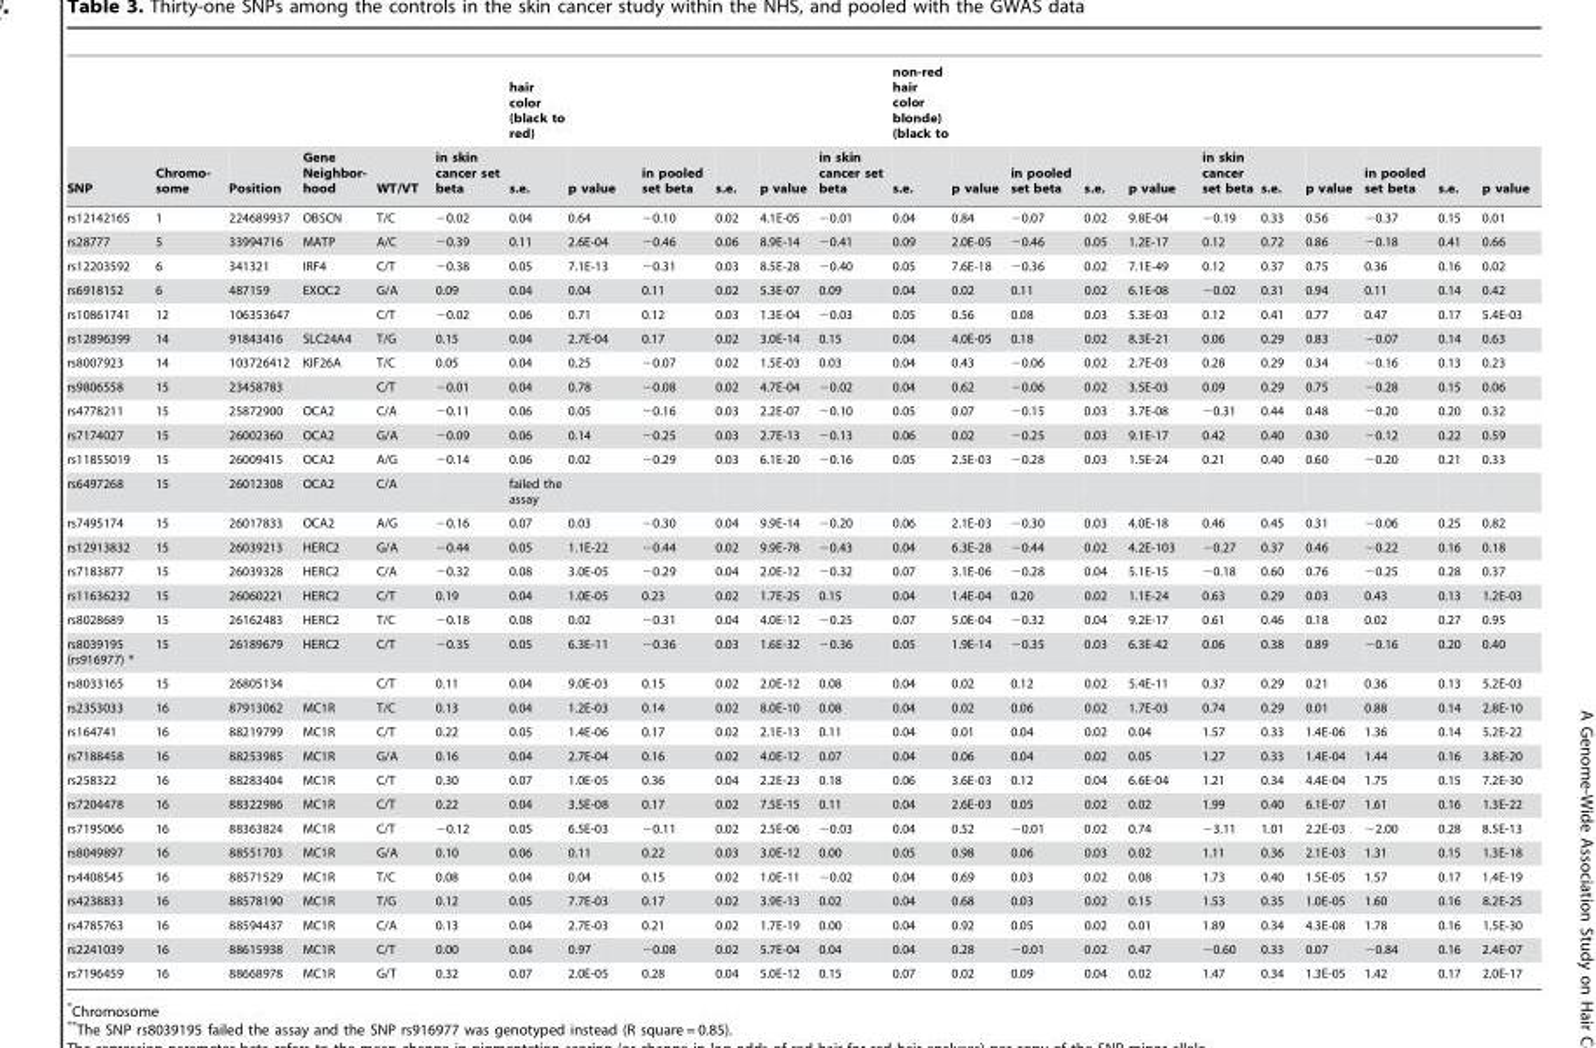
<table><thead><tr><td rowspan="2">SNP</td><td rowspan="2">Chromo- some</td><td rowspan="2">Position</td><td rowspan="2">Gene Neighbor- hood</td><td rowspan="2">WT/VT</td><td rowspan="2">in skin cancer set beta</td><td rowspan="2">hair color (black to red) s.e.</td><td rowspan="2">p value</td><td rowspan="2">in pooled set beta</td><td rowspan="2">s.e.</td><td rowspan="2">p value</td><td rowspan="2">in skin cancer set beta</td><td rowspan="2">non-red hair color blonde) (black to s.e.</td><td rowspan="2">p value</td><td rowspan="2">in pooled set beta</td><td rowspan="2">s.e.</td><td rowspan="2">p value</td><td rowspan="2">in skin cancer set beta</td><td rowspan="2">s.e.</td><td rowspan="2">p value</td><td rowspan="2">in pooled set beta</td><td rowspan="2">s.e.</td><td rowspan="2">p value</td></tr><tr></tr></thead><tbody><tr><td>rs12142165</td><td>1</td><td>224689937</td><td>OBSCN</td><td>T/C</td><td>−0.02</td><td>0.04</td><td>0.64</td><td>−0.10</td><td>0.02</td><td>4.1E-05</td><td>−0.01</td><td>0.04</td><td>0.84</td><td>−0.07</td><td>0.02</td><td>9.8E-04</td><td>−0.19</td><td>0.33</td><td>0.56</td><td>−0.37</td><td>0.15</td><td>0.01</td></tr><tr><td>rs28777</td><td>5</td><td>33994716</td><td>MATP</td><td>A/C</td><td>−0.39</td><td>0.11</td><td>2.6E-04</td><td>−0.46</td><td>0.06</td><td>8.9E-14</td><td>−0.41</td><td>0.09</td><td>2.0E-05</td><td>−0.46</td><td>0.05</td><td>1.2E-17</td><td>0.12</td><td>0.72</td><td>0.86</td><td>−0.18</td><td>0.41</td><td>0.66</td></tr><tr><td>rs12203592</td><td>6</td><td>341321</td><td>IRF4</td><td>C/T</td><td>−0.38</td><td>0.05</td><td>7.1E-13</td><td>−0.31</td><td>0.03</td><td>8.5E-28</td><td>−0.40</td><td>0.05</td><td>7.6E-18</td><td>−0.36</td><td>0.02</td><td>7.1E-49</td><td>0.12</td><td>0.37</td><td>0.75</td><td>0.36</td><td>0.16</td><td>0.02</td></tr><tr><td>rs6918152</td><td>6</td><td>487159</td><td>EXOC2</td><td>G/A</td><td>0.09</td><td>0.04</td><td>0.04</td><td>0.11</td><td>0.02</td><td>5.3E-07</td><td>0.09</td><td>0.04</td><td>0.02</td><td>0.11</td><td>0.02</td><td>6.1E-08</td><td>−0.02</td><td>0.31</td><td>0.94</td><td>0.11</td><td>0.14</td><td>0.42</td></tr><tr><td>rs10861741</td><td>12</td><td>106353647</td><td></td><td>C/T</td><td>−0.02</td><td>0.06</td><td>0.71</td><td>0.12</td><td>0.03</td><td>1.3E-04</td><td>−0.03</td><td>0.05</td><td>0.56</td><td>0.08</td><td>0.03</td><td>5.3E-03</td><td>0.12</td><td>0.41</td><td>0.77</td><td>0.47</td><td>0.17</td><td>5.4E-03</td></tr><tr><td>rs12896399</td><td>14</td><td>91843416</td><td>SLC24A4</td><td>T/G</td><td>0.15</td><td>0.04</td><td>2.7E-04</td><td>0.17</td><td>0.02</td><td>3.0E-14</td><td>0.15</td><td>0.04</td><td>4.0E-05</td><td>0.18</td><td>0.02</td><td>8.3E-21</td><td>0.06</td><td>0.29</td><td>0.83</td><td>−0.07</td><td>0.14</td><td>0.63</td></tr><tr><td>rs8007923</td><td>14</td><td>103726412</td><td>KIF26A</td><td>T/C</td><td>0.05</td><td>0.04</td><td>0.25</td><td>−0.07</td><td>0.02</td><td>1.5E-03</td><td>0.03</td><td>0.04</td><td>0.43</td><td>−0.06</td><td>0.02</td><td>2.7E-03</td><td>0.28</td><td>0.29</td><td>0.34</td><td>−0.16</td><td>0.13</td><td>0.23</td></tr><tr><td>rs9806558</td><td>15</td><td>23458783</td><td></td><td>C/T</td><td>−0.01</td><td>0.04</td><td>0.78</td><td>−0.08</td><td>0.02</td><td>4.7E-04</td><td>−0.02</td><td>0.04</td><td>0.62</td><td>−0.06</td><td>0.02</td><td>3.5E-03</td><td>0.09</td><td>0.29</td><td>0.75</td><td>−0.28</td><td>0.15</td><td>0.06</td></tr><tr><td>rs4778211</td><td>15</td><td>25872900</td><td>OCA2</td><td>C/A</td><td>−0.11</td><td>0.06</td><td>0.05</td><td>−0.16</td><td>0.03</td><td>2.2E-07</td><td>−0.10</td><td>0.05</td><td>0.07</td><td>−0.15</td><td>0.03</td><td>3.7E-08</td><td>−0.31</td><td>0.44</td><td>0.48</td><td>−0.20</td><td>0.20</td><td>0.32</td></tr><tr><td>rs7174027</td><td>15</td><td>26002360</td><td>OCA2</td><td>G/A</td><td>−0.09</td><td>0.06</td><td>0.14</td><td>−0.25</td><td>0.03</td><td>2.7E-13</td><td>−0.13</td><td>0.06</td><td>0.02</td><td>−0.25</td><td>0.03</td><td>9.1E-17</td><td>0.42</td><td>0.40</td><td>0.30</td><td>−0.12</td><td>0.22</td><td>0.59</td></tr><tr><td>rs11855019</td><td>15</td><td>26009415</td><td>OCA2</td><td>A/G</td><td>−0.14</td><td>0.06</td><td>0.02</td><td>−0.29</td><td>0.03</td><td>6.1E-20</td><td>−0.16</td><td>0.05</td><td>2.5E-03</td><td>−0.28</td><td>0.03</td><td>1.5E-24</td><td>0.21</td><td>0.40</td><td>0.60</td><td>−0.20</td><td>0.21</td><td>0.33</td></tr><tr><td>rs6497268</td><td>15</td><td>26012308</td><td>OCA2</td><td>C/A</td><td></td><td>failed the assay</td><td></td><td></td><td></td><td></td><td></td><td></td><td></td><td></td><td></td><td></td><td></td><td></td><td></td><td></td><td></td><td></td></tr><tr><td>rs7495174</td><td>15</td><td>26017833</td><td>OCA2</td><td>A/G</td><td>−0.16</td><td>0.07</td><td>0.03</td><td>−0.30</td><td>0.04</td><td>9.9E-14</td><td>−0.20</td><td>0.06</td><td>2.1E-03</td><td>−0.30</td><td>0.03</td><td>4.0E-18</td><td>0.46</td><td>0.45</td><td>0.31</td><td>−0.06</td><td>0.25</td><td>0.82</td></tr><tr><td>rs12913832</td><td>15</td><td>26039213</td><td>HERC2</td><td>G/A</td><td>−0.44</td><td>0.05</td><td>1.1E-22</td><td>−0.44</td><td>0.02</td><td>9.9E-78</td><td>−0.43</td><td>0.04</td><td>6.3E-28</td><td>−0.44</td><td>0.02</td><td>4.2E-103</td><td>−0.27</td><td>0.37</td><td>0.46</td><td>−0.22</td><td>0.16</td><td>0.18</td></tr><tr><td>rs7183877</td><td>15</td><td>26039328</td><td>HERC2</td><td>C/A</td><td>−0.32</td><td>0.08</td><td>3.0E-05</td><td>−0.29</td><td>0.04</td><td>2.0E-12</td><td>−0.32</td><td>0.07</td><td>3.1E-06</td><td>−0.28</td><td>0.04</td><td>5.1E-15</td><td>−0.18</td><td>0.60</td><td>0.76</td><td>−0.25</td><td>0.28</td><td>0.37</td></tr><tr><td>rs11636232</td><td>15</td><td>26060221</td><td>HERC2</td><td>C/T</td><td>0.19</td><td>0.04</td><td>1.0E-05</td><td>0.23</td><td>0.02</td><td>1.7E-25</td><td>0.15</td><td>0.04</td><td>1.4E-04</td><td>0.20</td><td>0.02</td><td>1.1E-24</td><td>0.63</td><td>0.29</td><td>0.03</td><td>0.43</td><td>0.13</td><td>1.2E-03</td></tr><tr><td>rs8028689</td><td>15</td><td>26162483</td><td>HERC2</td><td>T/C</td><td>−0.18</td><td>0.08</td><td>0.02</td><td>−0.31</td><td>0.04</td><td>4.0E-12</td><td>−0.25</td><td>0.07</td><td>5.0E-04</td><td>−0.32</td><td>0.04</td><td>9.2E-17</td><td>0.61</td><td>0.46</td><td>0.18</td><td>0.02</td><td>0.27</td><td>0.95</td></tr><tr><td>rs8039195 (rs916977) *</td><td>15</td><td>26189679</td><td>HERC2</td><td>C/T</td><td>−0.35</td><td>0.05</td><td>6.3E-11</td><td>−0.36</td><td>0.03</td><td>1.6E-32</td><td>−0.36</td><td>0.05</td><td>1.9E-14</td><td>−0.35</td><td>0.03</td><td>6.3E-42</td><td>0.06</td><td>0.38</td><td>0.89</td><td>−0.16</td><td>0.20</td><td>0.40</td></tr><tr><td>rs8033165</td><td>15</td><td>26805134</td><td></td><td>C/T</td><td>0.11</td><td>0.04</td><td>9.0E-03</td><td>0.15</td><td>0.02</td><td>2.0E-12</td><td>0.08</td><td>0.04</td><td>0.02</td><td>0.12</td><td>0.02</td><td>5.4E-11</td><td>0.37</td><td>0.29</td><td>0.21</td><td>0.36</td><td>0.13</td><td>5.2E-03</td></tr><tr><td>rs2353033</td><td>16</td><td>87913062</td><td>MC1R</td><td>T/C</td><td>0.13</td><td>0.04</td><td>1.2E-03</td><td>0.14</td><td>0.02</td><td>8.0E-10</td><td>0.08</td><td>0.04</td><td>0.02</td><td>0.06</td><td>0.02</td><td>1.7E-03</td><td>0.74</td><td>0.29</td><td>0.01</td><td>0.88</td><td>0.14</td><td>2.8E-10</td></tr><tr><td>rs164741</td><td>16</td><td>88219799</td><td>MC1R</td><td>C/T</td><td>0.22</td><td>0.05</td><td>1.4E-06</td><td>0.17</td><td>0.02</td><td>2.1E-13</td><td>0.11</td><td>0.04</td><td>0.01</td><td>0.04</td><td>0.02</td><td>0.04</td><td>1.57</td><td>0.33</td><td>1.4E-06</td><td>1.36</td><td>0.14</td><td>5.2E-22</td></tr><tr><td>rs7188458</td><td>16</td><td>88253985</td><td>MC1R</td><td>G/A</td><td>0.16</td><td>0.04</td><td>2.7E-04</td><td>0.16</td><td>0.02</td><td>4.0E-12</td><td>0.07</td><td>0.04</td><td>0.06</td><td>0.04</td><td>0.02</td><td>0.05</td><td>1.27</td><td>0.33</td><td>1.4E-04</td><td>1.44</td><td>0.16</td><td>3.8E-20</td></tr><tr><td>rs258322</td><td>16</td><td>88283404</td><td>MC1R</td><td>C/T</td><td>0.30</td><td>0.07</td><td>1.0E-05</td><td>0.36</td><td>0.04</td><td>2.2E-23</td><td>0.18</td><td>0.06</td><td>3.6E-03</td><td>0.12</td><td>0.04</td><td>6.6E-04</td><td>1.21</td><td>0.34</td><td>4.4E-04</td><td>1.75</td><td>0.15</td><td>7.2E-30</td></tr><tr><td>rs7204478</td><td>16</td><td>88322986</td><td>MC1R</td><td>C/T</td><td>0.22</td><td>0.04</td><td>3.5E-08</td><td>0.17</td><td>0.02</td><td>7.5E-15</td><td>0.11</td><td>0.04</td><td>2.6E-03</td><td>0.05</td><td>0.02</td><td>0.02</td><td>1.99</td><td>0.40</td><td>6.1E-07</td><td>1.61</td><td>0.16</td><td>1.3E-22</td></tr><tr><td>rs7195066</td><td>16</td><td>88363824</td><td>MC1R</td><td>C/T</td><td>−0.12</td><td>0.05</td><td>6.5E-03</td><td>−0.11</td><td>0.02</td><td>2.5E-06</td><td>−0.03</td><td>0.04</td><td>0.52</td><td>−0.01</td><td>0.02</td><td>0.74</td><td>−3.11</td><td>1.01</td><td>2.2E-03</td><td>−2.00</td><td>0.28</td><td>8.5E-13</td></tr><tr><td>rs8049897</td><td>16</td><td>88551703</td><td>MC1R</td><td>G/A</td><td>0.10</td><td>0.06</td><td>0.11</td><td>0.22</td><td>0.03</td><td>3.0E-12</td><td>0.00</td><td>0.05</td><td>0.98</td><td>0.06</td><td>0.03</td><td>0.02</td><td>1.11</td><td>0.36</td><td>2.1E-03</td><td>1.31</td><td>0.15</td><td>1.3E-18</td></tr><tr><td>rs4408545</td><td>16</td><td>88571529</td><td>MC1R</td><td>T/C</td><td>0.08</td><td>0.04</td><td>0.04</td><td>0.15</td><td>0.02</td><td>1.0E-11</td><td>−0.02</td><td>0.04</td><td>0.69</td><td>0.03</td><td>0.02</td><td>0.08</td><td>1.73</td><td>0.40</td><td>1.5E-05</td><td>1.57</td><td>0.17</td><td>1.4E-19</td></tr><tr><td>rs4238833</td><td>16</td><td>88578190</td><td>MC1R</td><td>T/G</td><td>0.12</td><td>0.05</td><td>7.7E-03</td><td>0.17</td><td>0.02</td><td>3.9E-13</td><td>0.02</td><td>0.04</td><td>0.68</td><td>0.03</td><td>0.02</td><td>0.15</td><td>1.53</td><td>0.35</td><td>1.0E-05</td><td>1.60</td><td>0.16</td><td>8.2E-25</td></tr><tr><td>rs4785763</td><td>16</td><td>88594437</td><td>MC1R</td><td>C/A</td><td>0.13</td><td>0.04</td><td>2.7E-03</td><td>0.21</td><td>0.02</td><td>1.7E-19</td><td>0.00</td><td>0.04</td><td>0.92</td><td>0.05</td><td>0.02</td><td>0.01</td><td>1.89</td><td>0.34</td><td>4.3E-08</td><td>1.78</td><td>0.16</td><td>1.5E-30</td></tr><tr><td>rs2241039</td><td>16</td><td>88615938</td><td>MC1R</td><td>C/T</td><td>0.00</td><td>0.04</td><td>0.97</td><td>−0.08</td><td>0.02</td><td>5.7E-04</td><td>0.04</td><td>0.04</td><td>0.28</td><td>−0.01</td><td>0.02</td><td>0.47</td><td>−0.60</td><td>0.33</td><td>0.07</td><td>−0.84</td><td>0.16</td><td>2.4E-07</td></tr><tr><td>rs7196459</td><td>16</td><td>88668978</td><td>MC1R</td><td>G/T</td><td>0.32</td><td>0.07</td><td>2.0E-05</td><td>0.28</td><td>0.04</td><td>5.0E-12</td><td>0.15</td><td>0.07</td><td>0.02</td><td>0.09</td><td>0.04</td><td>0.02</td><td>1.47</td><td>0.34</td><td>1.3E-05</td><td>1.42</td><td>0.17</td><td>2.0E-17</td></tr></tbody></table>